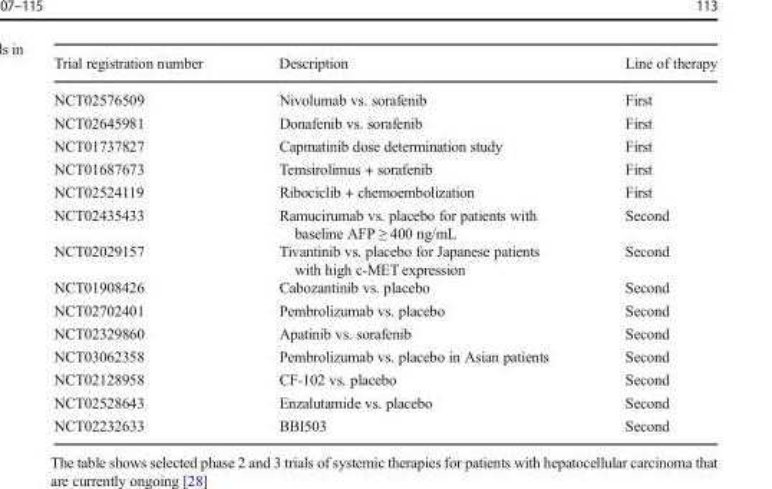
<table><thead><tr><td>Trial registration number</td><td>Description</td><td>Line of therapy</td></tr></thead><tbody><tr><td>NCT02576509</td><td>Nivolumab vs. sorafenib</td><td>First</td></tr><tr><td>NCT02645981</td><td>Donafenib vs. sorafenib</td><td>First</td></tr><tr><td>NCT01737827</td><td>Capmatinib dose determination study</td><td>First</td></tr><tr><td>NCT01687673</td><td>Temsirolimus + sorafenib</td><td>First</td></tr><tr><td>NCT02524119</td><td>Ribociclib + chemoembolization</td><td>First</td></tr><tr><td>NCT02435433</td><td>Ramucirumab vs. placebo for patients with baseline AFP ≥ 400 ng/mL</td><td>Second</td></tr><tr><td>NCT02029157</td><td>Tivantinib vs. placebo for Japanese patients with high c-MET expression</td><td>Second</td></tr><tr><td>NCT01908426</td><td>Cabozantinib vs. placebo</td><td>Second</td></tr><tr><td>NCT02702401</td><td>Pembrolizumab vs. placebo</td><td>Second</td></tr><tr><td>NCT02329860</td><td>Apatinib vs. sorafenib</td><td>Second</td></tr><tr><td>NCT03062358</td><td>Pembrolizumab vs. placebo in Asian patients</td><td>Second</td></tr><tr><td>NCT02128958</td><td>CF-102 vs. placebo</td><td>Second</td></tr><tr><td>NCT02528643</td><td>Enzalutamide vs. placebo</td><td>Second</td></tr><tr><td>NCT02232633</td><td>BBI503</td><td>Second</td></tr></tbody></table>